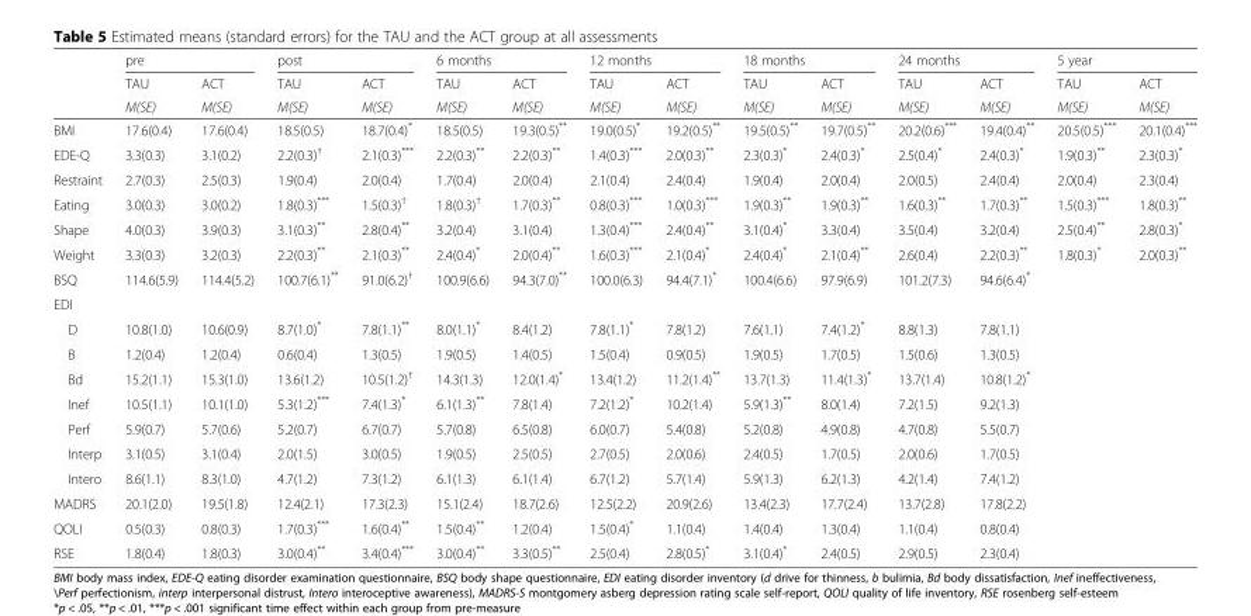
<table><thead><tr><td rowspan="3"></td><td colspan="2">pre</td><td colspan="2">post</td><td colspan="2">6 months</td><td colspan="2">12 months</td><td colspan="2">18 months</td><td colspan="2">24 months</td><td colspan="2">5 year</td></tr><tr><td rowspan="2">TAU M(SE)</td><td rowspan="2">ACT M(SE)</td><td rowspan="2">TAU M(SE)</td><td rowspan="2">ACT M(SE)</td><td rowspan="2">TAU M(SE)</td><td rowspan="2">ACT M(SE)</td><td rowspan="2">TAU M(SE)</td><td rowspan="2">ACT M(SE)</td><td rowspan="2">TAU M(SE)</td><td rowspan="2">ACT M(SE)</td><td rowspan="2">TAU M(SE)</td><td rowspan="2">ACT M(SE)</td><td rowspan="2">TAU M(SE)</td><td rowspan="2">ACT M(SE)</td></tr><tr></tr></thead><tbody><tr><td>BMI</td><td>17.6(0.4)</td><td>17.6(0.4)</td><td>18.5(0.5)</td><td>18.7(0.4)*</td><td>18.5(0.5)</td><td>19.3(0.5)**</td><td>19.0(0.5)*</td><td>19.2(0.5)**</td><td>19.5(0.5)**</td><td>19.7(0.5)**</td><td>20.2(0.6)***</td><td>19.4(0.4)**</td><td>20.5(0.5)***</td><td>20.1(0.4)***</td></tr><tr><td>EDE-Q</td><td>3.3(0.3)</td><td>3.1(0.2)</td><td>2.2(0.3)<sup>†</sup></td><td>2.1(0.3)***</td><td>2.2(0.3)**</td><td>2.2(0.3)**</td><td>1.4(0.3)***</td><td>2.0(0.3)**</td><td>2.3(0.3)*</td><td>2.4(0.3)*</td><td>2.5(0.4)*</td><td>2.4(0.3)*</td><td>1.9(0.3)**</td><td>2.3(0.3)*</td></tr><tr><td>Restraint</td><td>2.7(0.3)</td><td>2.5(0.3)</td><td>1.9(0.4)</td><td>2.0(0.4)</td><td>1.7(0.4)</td><td>2.0(0.4)</td><td>2.1(0.4)</td><td>2.4(0.4)</td><td>1.9(0.4)</td><td>2.0(0.4)</td><td>2.0(0.5)</td><td>2.4(0.4)</td><td>2.0(0.4)</td><td>2.3(0.4)</td></tr><tr><td>Eating</td><td>3.0(0.3)</td><td>3.0(0.2)</td><td>1.8(0.3)***</td><td>1.5(0.3)<sup>†</sup></td><td>1.8(0.3)<sup>†</sup></td><td>1.7(0.3)**</td><td>0.8(0.3)***</td><td>1.0(0.3)***</td><td>1.9(0.3)**</td><td>1.9(0.3)**</td><td>1.6(0.3)**</td><td>1.7(0.3)**</td><td>1.5(0.3)***</td><td>1.8(0.3)**</td></tr><tr><td>Shape</td><td>4.0(0.3)</td><td>3.9(0.3)</td><td>3.1(0.3)**</td><td>2.8(0.4)**</td><td>3.2(0.4)</td><td>3.1(0.4)</td><td>1.3(0.4)***</td><td>2.4(0.4)**</td><td>3.1(0.4)*</td><td>3.3(0.4)</td><td>3.5(0.4)</td><td>3.2(0.4)</td><td>2.5(0.4)**</td><td>2.8(0.3)*</td></tr><tr><td>Weight</td><td>3.3(0.3)</td><td>3.2(0.3)</td><td>2.2(0.3)**</td><td>2.1(0.3)**</td><td>2.4(0.4)*</td><td>2.0(0.4)**</td><td>1.6(0.3)***</td><td>2.1(0.4)*</td><td>2.4(0.4)*</td><td>2.1(0.4)**</td><td>2.6(0.4)</td><td>2.2(0.3)**</td><td>1.8(0.3)*</td><td>2.0(0.3)**</td></tr><tr><td>BSQ</td><td>114.6(5.9)</td><td>114.4(5.2)</td><td>100.7(6.1)**</td><td>91.0(6.2)<sup>†</sup></td><td>100.9(6.6)</td><td>94.3(7.0)**</td><td>100.0(6.3)</td><td>94.4(7.1)*</td><td>100.4(6.6)</td><td>97.9(6.9)</td><td>101.2(7.3)</td><td>94.6(6.4)*</td><td></td><td></td></tr><tr><td colspan="15">EDI</td></tr><tr><td>D</td><td>10.8(1.0)</td><td>10.6(0.9)</td><td>8.7(1.0)*</td><td>7.8(1.1)**</td><td>8.0(1.1)*</td><td>8.4(1.2)</td><td>7.8(1.1)*</td><td>7.8(1.2)</td><td>7.6(1.1)</td><td>7.4(1.2)*</td><td>8.8(1.3)</td><td>7.8(1.1)</td><td></td><td></td></tr><tr><td>B</td><td>1.2(0.4)</td><td>1.2(0.4)</td><td>0.6(0.4)</td><td>1.3(0.5)</td><td>1.9(0.5)</td><td>1.4(0.5)</td><td>1.5(0.4)</td><td>0.9(0.5)</td><td>1.9(0.5)</td><td>1.7(0.5)</td><td>1.5(0.6)</td><td>1.3(0.5)</td><td></td><td></td></tr><tr><td>Bd</td><td>15.2(1.1)</td><td>15.3(1.0)</td><td>13.6(1.2)</td><td>10.5(1.2)<sup>†</sup></td><td>14.3(1.3)</td><td>12.0(1.4)*</td><td>13.4(1.2)</td><td>11.2(1.4)**</td><td>13.7(1.3)</td><td>11.4(1.3)*</td><td>13.7(1.4)</td><td>10.8(1.2)*</td><td></td><td></td></tr><tr><td>Inef</td><td>10.5(1.1)</td><td>10.1(1.0)</td><td>5.3(1.2)***</td><td>7.4(1.3)*</td><td>6.1(1.3)**</td><td>7.8(1.4)</td><td>7.2(1.2)*</td><td>10.2(1.4)</td><td>5.9(1.3)**</td><td>8.0(1.4)</td><td>7.2(1.5)</td><td>9.2(1.3)</td><td></td><td></td></tr><tr><td>Perf</td><td>5.9(0.7)</td><td>5.7(0.6)</td><td>5.2(0.7)</td><td>6.7(0.7)</td><td>5.7(0.8)</td><td>6.5(0.8)</td><td>6.0(0.7)</td><td>5.4(0.8)</td><td>5.2(0.8)</td><td>4.9(0.8)</td><td>4.7(0.8)</td><td>5.5(0.7)</td><td></td><td></td></tr><tr><td>Interp</td><td>3.1(0.5)</td><td>3.1(0.4)</td><td>2.0(1.5)</td><td>3.0(0.5)</td><td>1.9(0.5)</td><td>2.5(0.5)</td><td>2.7(0.5)</td><td>2.0(0.6)</td><td>2.4(0.5)</td><td>1.7(0.5)</td><td>2.0(0.6)</td><td>1.7(0.5)</td><td></td><td></td></tr><tr><td>Intero</td><td>8.6(1.1)</td><td>8.3(1.0)</td><td>4.7(1.2)</td><td>7.3(1.2)</td><td>6.1(1.3)</td><td>6.1(1.4)</td><td>6.7(1.2)</td><td>5.7(1.4)</td><td>5.9(1.3)</td><td>6.2(1.3)</td><td>4.2(1.4)</td><td>7.4(1.2)</td><td></td><td></td></tr><tr><td>MADRS</td><td>20.1(2.0)</td><td>19.5(1.8)</td><td>12.4(2.1)</td><td>17.3(2.3)</td><td>15.1(2.4)</td><td>18.7(2.6)</td><td>12.5(2.2)</td><td>20.9(2.6)</td><td>13.4(2.3)</td><td>17.7(2.4)</td><td>13.7(2.8)</td><td>17.8(2.2)</td><td></td><td></td></tr><tr><td>QOLI</td><td>0.5(0.3)</td><td>0.8(0.3)</td><td>1.7(0.3)***</td><td>1.6(0.4)**</td><td>1.5(0.4)**</td><td>1.2(0.4)</td><td>1.5(0.4)*</td><td>1.1(0.4)</td><td>1.4(0.4)</td><td>1.3(0.4)</td><td>1.1(0.4)</td><td>0.8(0.4)</td><td></td><td></td></tr><tr><td>RSE</td><td>1.8(0.4)</td><td>1.8(0.3)</td><td>3.0(0.4)**</td><td>3.4(0.4)***</td><td>3.0(0.4)**</td><td>3.3(0.5)**</td><td>2.5(0.4)</td><td>2.8(0.5)*</td><td>3.1(0.4)*</td><td>2.4(0.5)</td><td>2.9(0.5)</td><td>2.3(0.4)</td><td></td><td></td></tr></tbody></table>